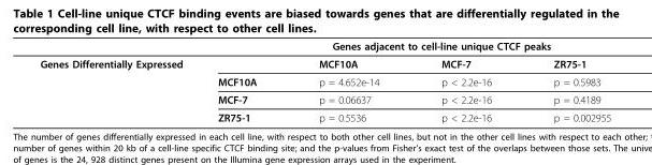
<table><thead><tr><td rowspan="2">Genes Differentially Expressed</td><td colspan="4">Genes adjacent to cell-line unique CTCF peaks</td></tr><tr><td></td><td>MCF10A</td><td>MCF-7</td><td>ZR75-1</td></tr></thead><tbody><tr><td></td><td>MCF10A</td><td>p = 4.652e-14</td><td>p &lt; 2.2e-16</td><td>p = 0.5983</td></tr><tr><td></td><td>MCF-7</td><td>p = 0.06637</td><td>p &lt; 2.2e-16</td><td>p = 0.4189</td></tr><tr><td></td><td>ZR75-1</td><td>p = 0.5536</td><td>p &lt; 2.2e-16</td><td>p = 0.002955</td></tr></tbody></table>